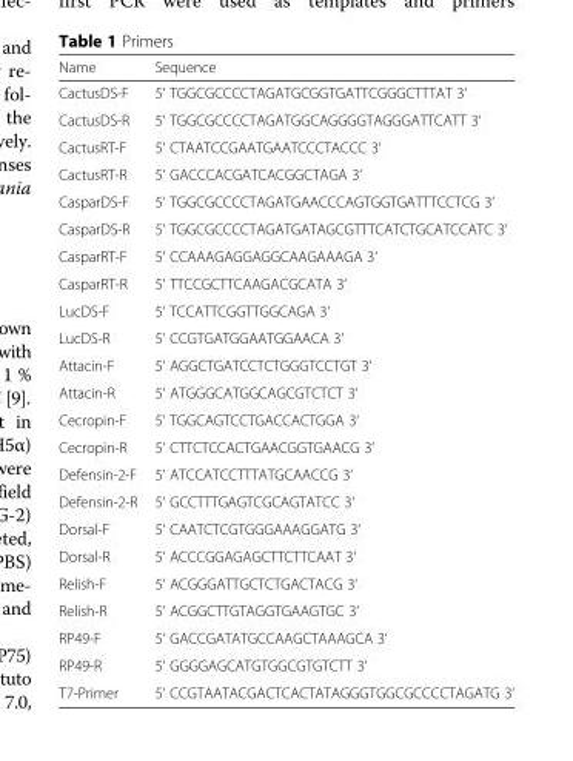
<table><thead><tr><td>Name</td><td>Sequence</td></tr></thead><tbody><tr><td>CactusDS-F</td><td>5‘ TGGCGCCCCTAGATGCGGTGATTCGGGCTTTAT 3‘</td></tr><tr><td>CactusDS-R</td><td>5‘ TGGCGCCCCTAGATGGCAGGGGTAGGGATTCATT 3‘</td></tr><tr><td>CactusRT-F</td><td>5‘ CTAATCCGAATGAATCCCTACCC 3‘</td></tr><tr><td>CactusRT-R</td><td>5‘ GACCCACGATCACGGCTAGA 3‘</td></tr><tr><td>CasparDS-F</td><td>5‘ TGGCGCCCCTAGATGAACCCAGTGGTGATTTCCTCG 3‘</td></tr><tr><td>CasparDS-R</td><td>5‘ TGGCGCCCCTAGATGATAGCGTTTCATCTGCATCCATC 3‘</td></tr><tr><td>CasparRT-F</td><td>5‘ CCAAAGAGGAGGCAAGAAAGA 3‘</td></tr><tr><td>CasparRT-R</td><td>5‘ TTCCGCTTCAAGACGCATA 3‘</td></tr><tr><td>LucDS-F</td><td>5‘ TCCATTCGGTTGGCAGA 3‘</td></tr><tr><td>LucDS-R</td><td>5‘ CCGTGATGGAATGGAACA 3‘</td></tr><tr><td>Attacin-F</td><td>5‘ AGGCTGATCCTCTGGGTCCTGT 3‘</td></tr><tr><td>Attacin-R</td><td>5‘ ATGGGCATGGCAGCGTCTCT 3‘</td></tr><tr><td>Cecropin-F</td><td>5‘ TGGCAGTCCTGACCACTGGA 3‘</td></tr><tr><td>Cecropin-R</td><td>5‘ CTTCTCCACTGAACGGTGAACG 3‘</td></tr><tr><td>Defensin-2-F</td><td>5‘ ATCCATCCTTTATGCAACCG 3‘</td></tr><tr><td>Defensin-2-R</td><td>5‘ GCCTTTGAGTCGCAGTATCC 3‘</td></tr><tr><td>Dorsal-F</td><td>5‘ CAATCTCGTGGGAAAGGATG 3‘</td></tr><tr><td>Dorsal-R</td><td>5‘ ACCCGGAGAGCTTCTTCAAT 3‘</td></tr><tr><td>Relish-F</td><td>5‘ ACGGGATTGCTCTGACTACG 3‘</td></tr><tr><td>Relish-R</td><td>5‘ ACGGCTTGTAGGTGAAGTGC 3‘</td></tr><tr><td>RP49-F</td><td>5‘ GACCGATATGCCAAGCTAAAGCA 3‘</td></tr><tr><td>RP49-R</td><td>5‘ GGGGAGCATGTGGCGTGTCTT 3‘</td></tr><tr><td>T7-Primer</td><td>5‘ CCGTAATACGACTCACTATAGGGTGGCGCCCCTAGATG 3‘</td></tr></tbody></table>